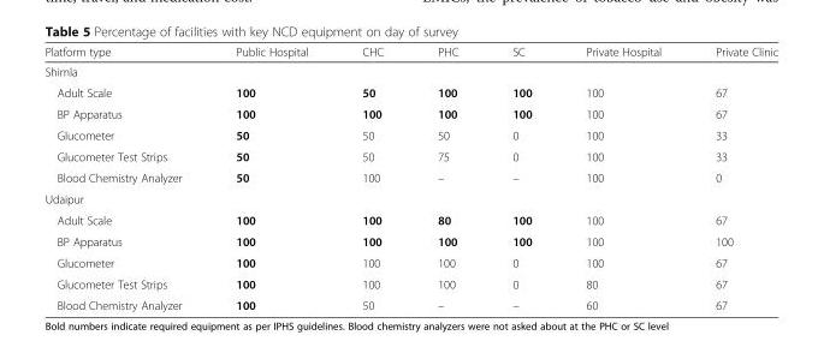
<table><thead><tr><td>Platform type</td><td>Public Hospital</td><td>CHC</td><td>PHC</td><td>SC</td><td>Private Hospital</td><td>Private Clinic</td></tr></thead><tbody><tr><td colspan="7">Shimla</td></tr><tr><td>Adult Scale</td><td>100</td><td>50</td><td>100</td><td>100</td><td>100</td><td>67</td></tr><tr><td>BP Apparatus</td><td>100</td><td>100</td><td>100</td><td>100</td><td>100</td><td>67</td></tr><tr><td>Glucometer</td><td>50</td><td>50</td><td>50</td><td>0</td><td>100</td><td>33</td></tr><tr><td>Glucometer Test Strips</td><td>50</td><td>50</td><td>75</td><td>0</td><td>100</td><td>33</td></tr><tr><td>Blood Chemistry Analyzer</td><td>50</td><td>100</td><td>–</td><td>–</td><td>100</td><td>0</td></tr><tr><td colspan="7">Udaipur</td></tr><tr><td>Adult Scale</td><td>100</td><td>100</td><td>80</td><td>100</td><td>100</td><td>67</td></tr><tr><td>BP Apparatus</td><td>100</td><td>100</td><td>100</td><td>100</td><td>100</td><td>100</td></tr><tr><td>Glucometer</td><td>100</td><td>100</td><td>100</td><td>0</td><td>100</td><td>67</td></tr><tr><td>Glucometer Test Strips</td><td>100</td><td>100</td><td>100</td><td>0</td><td>80</td><td>67</td></tr><tr><td>Blood Chemistry Analyzer</td><td>100</td><td>50</td><td>–</td><td>–</td><td>60</td><td>67</td></tr></tbody></table>